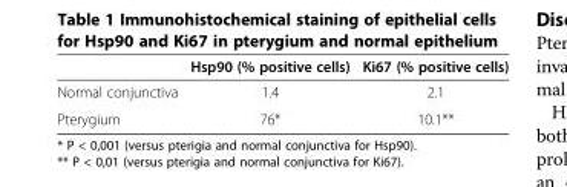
<table><thead><tr><td></td><td>Hsp90 (% positive cells)</td><td>Ki67 (% positive cells)</td></tr></thead><tbody><tr><td>Normal conjunctiva</td><td>1.4</td><td>2.1</td></tr><tr><td>Pterygium</td><td>76*</td><td>10.1**</td></tr></tbody></table>